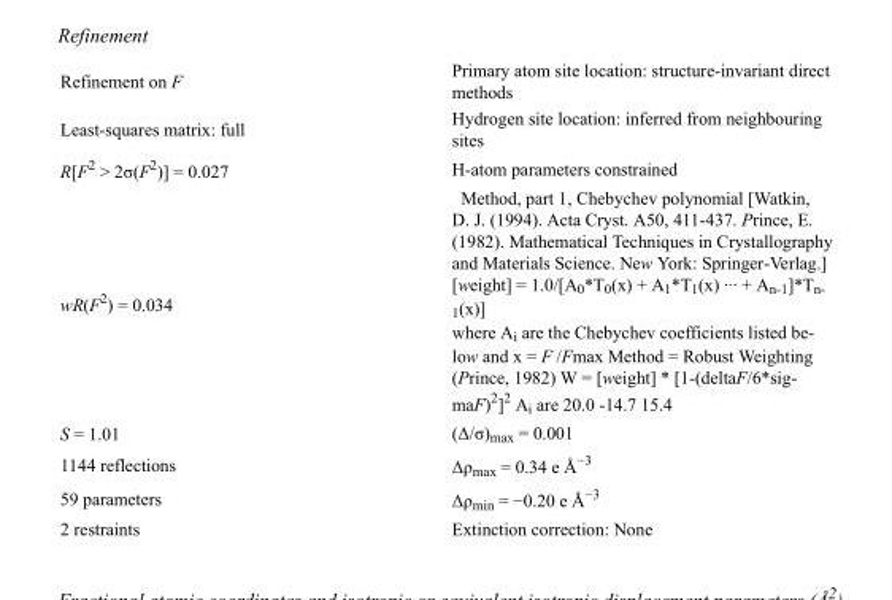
<table><tbody><tr><td>Refinement on F</td><td>Primary atom site location: structure-invariant direct methods</td></tr><tr><td>Least-squares matrix: full</td><td>Hydrogen site location: inferred from neighbouring sites</td></tr><tr><td>R[F<sup>2</sup> &gt; 2σ(F<sup>2</sup>)] = 0.027</td><td>H-atom parameters constrained</td></tr><tr><td>wR(F<sup>2</sup>) = 0.034</td><td>Method, part 1, Chebychev polynomial [Watkin, D. J. (1994). Acta Cryst. A50, 411-437. Prince, E. (1982). Mathematical Techniques in Crystallography and Materials Science. New York: Springer-Verlag.] [weight] = 1.0/[A0*T0(x) + A1*T1(x) ··· + An-1]*Tn- 1(x)] where Ai are the Chebychev coefficients listed be- low and x = F /Fmax Method = Robust Weighting (Prince, 1982) W = [weight] * [1-(deltaF/6*sig- maF)2]2 Ai are 20.0 -14.7 15.4</td></tr><tr><td>S = 1.01</td><td>(Δ/σ)<sub>max</sub> = 0.001</td></tr><tr><td>1144 reflections</td><td>Δρ<sub>max</sub> = 0.34 e Å<sup>−3</sup></td></tr><tr><td>59 parameters</td><td>Δρ<sub>min</sub> = −0.20 e Å<sup>−3</sup></td></tr><tr><td>2 restraints</td><td>Extinction correction: None</td></tr></tbody></table>